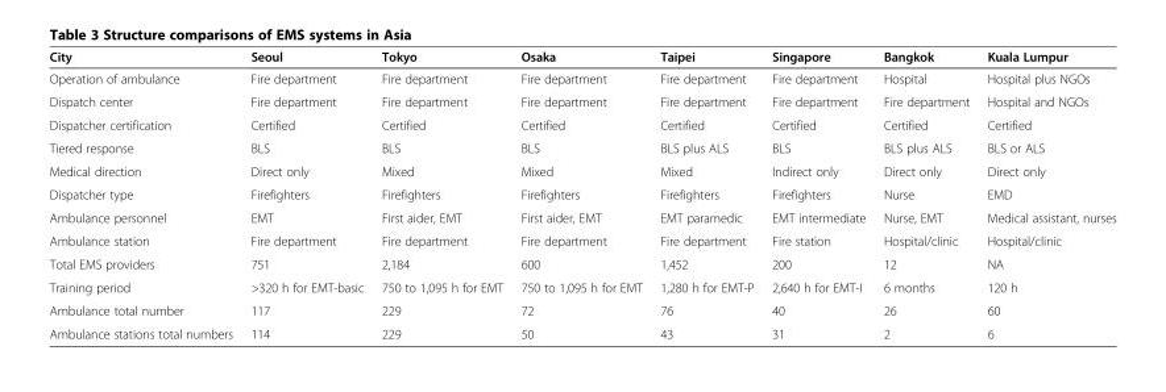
<table><thead><tr><td>City</td><td>Seoul</td><td>Tokyo</td><td>Osaka</td><td>Taipei</td><td>Singapore</td><td>Bangkok</td><td>Kuala Lumpur</td></tr></thead><tbody><tr><td>Operation of ambulance</td><td>Fire department</td><td>Fire department</td><td>Fire department</td><td>Fire department</td><td>Fire department</td><td>Hospital</td><td>Hospital plus NGOs</td></tr><tr><td>Dispatch center</td><td>Fire department</td><td>Fire department</td><td>Fire department</td><td>Fire department</td><td>Fire department</td><td>Fire department</td><td>Hospital and NGOs</td></tr><tr><td>Dispatcher certification</td><td>Certified</td><td>Certified</td><td>Certified</td><td>Certified</td><td>Certified</td><td>Certified</td><td>Certified</td></tr><tr><td>Tiered response</td><td>BLS</td><td>BLS</td><td>BLS</td><td>BLS plus ALS</td><td>BLS</td><td>BLS plus ALS</td><td>BLS or ALS</td></tr><tr><td>Medical direction</td><td>Direct only</td><td>Mixed</td><td>Mixed</td><td>Mixed</td><td>Indirect only</td><td>Direct only</td><td>Direct only</td></tr><tr><td>Dispatcher type</td><td>Firefighters</td><td>Firefighters</td><td>Firefighters</td><td>Firefighters</td><td>Firefighters</td><td>Nurse</td><td>EMD</td></tr><tr><td>Ambulance personnel</td><td>EMT</td><td>First aider, EMT</td><td>First aider, EMT</td><td>EMT paramedic</td><td>EMT intermediate</td><td>Nurse, EMT</td><td>Medical assistant, nurses</td></tr><tr><td>Ambulance station</td><td>Fire department</td><td>Fire department</td><td>Fire department</td><td>Fire department</td><td>Fire station</td><td>Hospital/clinic</td><td>Hospital/clinic</td></tr><tr><td>Total EMS providers</td><td>751</td><td>2,184</td><td>600</td><td>1,452</td><td>200</td><td>12</td><td>NA</td></tr><tr><td>Training period</td><td>&gt;320 h for EMT-basic</td><td>750 to 1,095 h for EMT</td><td>750 to 1,095 h for EMT</td><td>1,280 h for EMT-P</td><td>2,640 h for EMT-I</td><td>6 months</td><td>120 h</td></tr><tr><td>Ambulance total number</td><td>117</td><td>229</td><td>72</td><td>76</td><td>40</td><td>26</td><td>60</td></tr><tr><td>Ambulance stations total numbers</td><td>114</td><td>229</td><td>50</td><td>43</td><td>31</td><td>2</td><td>6</td></tr></tbody></table>